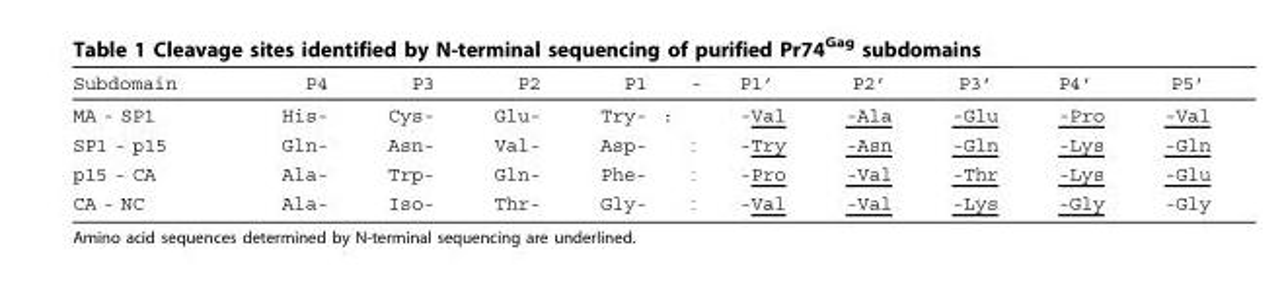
<table><thead><tr><td>Subdomain</td><td>P4</td><td>P3</td><td>P2</td><td>P1</td><td>-</td><td>P1’</td><td>P2’</td><td>P3’</td><td>P4’</td><td>P5’</td></tr></thead><tbody><tr><td>MA - SP1</td><td>His-</td><td>Cys-</td><td>Glu-</td><td>Try-</td><td>:</td><td>-Val</td><td>-Ala</td><td>-Glu</td><td>-Pro</td><td>-Val</td></tr><tr><td>SP1 - p15</td><td>Gln-</td><td>Asn-</td><td>Val-</td><td>Asp-</td><td>:</td><td>-Try</td><td>-Asn</td><td>-Gln</td><td>-Lys</td><td>-Gln</td></tr><tr><td>p15 - CA</td><td>Ala-</td><td>Trp-</td><td>Gln-</td><td>Phe-</td><td>:</td><td>-Pro</td><td>-Val</td><td>-Thr</td><td>-Lys</td><td>-Glu</td></tr><tr><td>CA - NC</td><td>Ala-</td><td>Iso-</td><td>Thr-</td><td>Gly-</td><td>:</td><td>-Val</td><td>-Val</td><td>-Lys</td><td>-Gly</td><td>-Gly</td></tr></tbody></table>